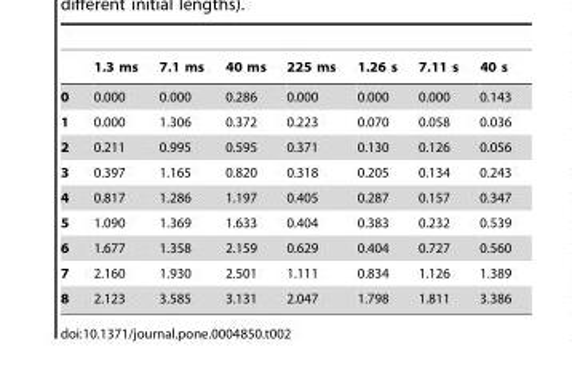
<table><thead><tr><td></td><td>1.3 ms</td><td>7.1 ms</td><td>40 ms</td><td>225 ms</td><td>1.26 s</td><td>7.11 s</td><td>40 s</td></tr></thead><tbody><tr><td>0</td><td>0.000</td><td>0.000</td><td>0.286</td><td>0.000</td><td>0.000</td><td>0.000</td><td>0.143</td></tr><tr><td>1</td><td>0.000</td><td>1.306</td><td>0.372</td><td>0.223</td><td>0.070</td><td>0.058</td><td>0.036</td></tr><tr><td>2</td><td>0.211</td><td>0.995</td><td>0.595</td><td>0.371</td><td>0.130</td><td>0.126</td><td>0.056</td></tr><tr><td>3</td><td>0.397</td><td>1.165</td><td>0.820</td><td>0.318</td><td>0.205</td><td>0.134</td><td>0.243</td></tr><tr><td>4</td><td>0.817</td><td>1.286</td><td>1.197</td><td>0.405</td><td>0.287</td><td>0.157</td><td>0.347</td></tr><tr><td>5</td><td>1.090</td><td>1.369</td><td>1.633</td><td>0.404</td><td>0.383</td><td>0.232</td><td>0.539</td></tr><tr><td>6</td><td>1.677</td><td>1.358</td><td>2.159</td><td>0.629</td><td>0.404</td><td>0.727</td><td>0.560</td></tr><tr><td>7</td><td>2.160</td><td>1.930</td><td>2.501</td><td>1.111</td><td>0.834</td><td>1.126</td><td>1.389</td></tr><tr><td>8</td><td>2.123</td><td>3.585</td><td>3.131</td><td>2.047</td><td>1.798</td><td>1.811</td><td>3.386</td></tr></tbody></table>